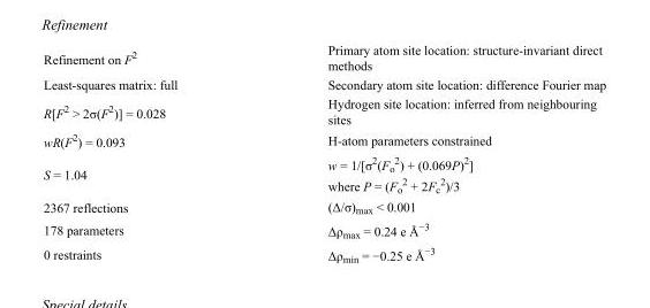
<table><tbody><tr><td>Refinement on F<sup>2</sup></td><td>Primary atom site location: structure-invariant direct methods</td></tr><tr><td>Least-squares matrix: full</td><td>Secondary atom site location: difference Fourier map</td></tr><tr><td>R[F<sup>2</sup> &gt; 2σ(F<sup>2</sup>)] = 0.028</td><td>Hydrogen site location: inferred from neighbouring sites</td></tr><tr><td>wR(F<sup>2</sup>) = 0.093</td><td>H-atom parameters constrained</td></tr><tr><td>S = 1.04</td><td>w = 1/[σ<sup>2</sup>(F<sub>o</sub> <sup>2</sup>) + (0.069P)<sup>2</sup>] where P = (F<sub>o</sub> <sup>2</sup> + 2F<sub>c</sub> <sup>2</sup>)/3</td></tr><tr><td>2367 reflections</td><td>(Δ/σ)<sub>max</sub> &lt; 0.001</td></tr><tr><td>178 parameters</td><td>Δρ<sub>max</sub> = 0.24 e Å<sup>−3</sup></td></tr><tr><td>0 restraints</td><td>Δρ<sub>min</sub> = −0.25 e Å<sup>−3</sup></td></tr></tbody></table>